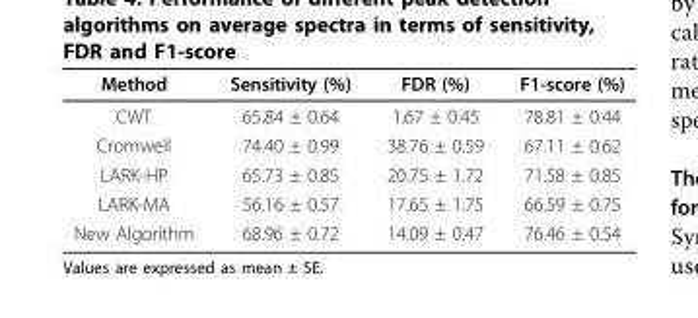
<table><thead><tr><td>Method</td><td>Sensitivity (%)</td><td>FDR (%)</td><td>F1-score (%)</td></tr></thead><tbody><tr><td>CWT</td><td>65.84 ± 0.64</td><td>1.67 ± 0.45</td><td>78.81 ± 0.44</td></tr><tr><td>Cromwell</td><td>74.40 ± 0.99</td><td>38.76 ± 0.59</td><td>67.11 ± 0.62</td></tr><tr><td>LARK-HP</td><td>65.73 ± 0.85</td><td>20.75 ± 1.72</td><td>71.58 ± 0.85</td></tr><tr><td>LARK-MA</td><td>56.16 ± 0.57</td><td>17.65 ± 1.75</td><td>66.59 ± 0.75</td></tr><tr><td>New Algorithm</td><td>68.96 ± 0.72</td><td>14.09 ± 0.47</td><td>76.46 ± 0.54</td></tr></tbody></table>